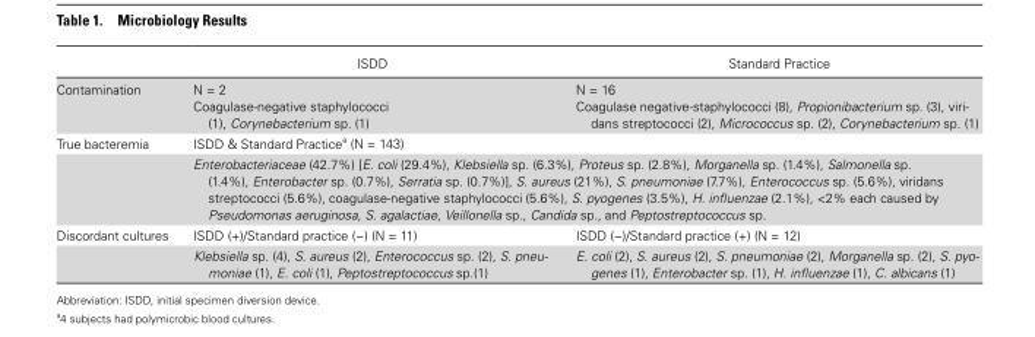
<table><thead><tr><td></td><td>ISDD</td><td>Standard Practice</td></tr></thead><tbody><tr><td>Contamination</td><td>N = 2 Coagulase-negative staphylococci (1), Corynebacterium sp. (1)</td><td>N = 16 Coagulase negative-staphylococci (8), Propionibacterium sp. (3), viri- dans streptococci (2), Micrococcus sp. (2), Corynebacterium sp. (1)</td></tr><tr><td rowspan="2">True bacteremia</td><td colspan="2">ISDD &amp; Standard Practice<sup>a</sup> (N = 143)</td></tr><tr><td colspan="2">Enterobacteriaceae (42.7%) [E. coli (29.4%), Klebsiella sp. (6.3%), Proteus sp. (2.8%), Morganella sp. (1.4%), Salmonella sp. (1.4%), Enterobacter sp. (0.7%), Serratia sp. (0.7%)], S. aureus (21%), S. pneumoniae (7.7%), Enterococcus sp. (5.6%), viridans streptococci (5.6%), coagulase-negative staphylococci (5.6%), S. pyogenes (3.5%), H. influenzae (2.1%), &lt;2% each caused by Pseudomonas aeruginosa, S. agalactiae, Veillonella sp., Candida sp., and Peptostreptococcus sp.</td></tr><tr><td rowspan="2">Discordant cultures</td><td>ISDD (+)/Standard practice (−) (N = 11)</td><td>ISDD (−)/Standard practice (+) (N = 12)</td></tr><tr><td>Klebsiella sp. (4), S. aureus (2), Enterococcus sp. (2), S. pneu- moniae (1), E. coli (1), Peptostreptococcus sp.(1)</td><td>E. coli (2), S. aureus (2), S. pneumoniae (2), Morganella sp. (2), S. pyo- genes (1), Enterobacter sp. (1), H. influenzae (1), C. albicans (1)</td></tr></tbody></table>